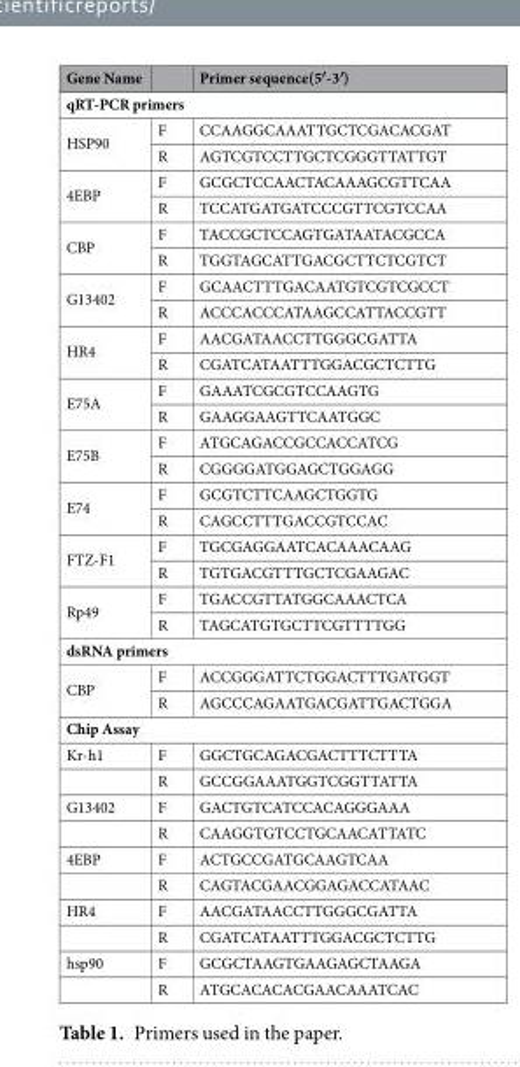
<table><thead><tr><td>Gene Name</td><td></td><td>Primer sequence(5′-3′)</td></tr></thead><tbody><tr><td colspan="3">qRT-PCR primers</td></tr><tr><td rowspan="2">HSP90</td><td>F</td><td>CCAAGGCAAATTGCTCGACACGAT</td></tr><tr><td>R</td><td>AGTCGTCCTTGCTCGGGTTATTGT</td></tr><tr><td rowspan="2">4EBP</td><td>F</td><td>GCGCTCCAACTACAAAGCGTTCAA</td></tr><tr><td>R</td><td>TCCATGATGATCCCGTTCGTCCAA</td></tr><tr><td rowspan="2">CBP</td><td>F</td><td>TACCGCTCCAGTGATAATACGCCA</td></tr><tr><td>R</td><td>TGGTAGCATTGACGCTTCTCGTCT</td></tr><tr><td rowspan="2">G13402</td><td>F</td><td>GCAACTTTGACAATGTCGTCGCCT</td></tr><tr><td>R</td><td>ACCCACCCATAAGCCATTACCGTT</td></tr><tr><td rowspan="2">HR4</td><td>F</td><td>AACGATAACCTTGGGCGATTA</td></tr><tr><td>R</td><td>CGATCATAATTTGGACGCTCTTG</td></tr><tr><td rowspan="2">E75A</td><td>F</td><td>GAAATCGCGTCCAAGTG</td></tr><tr><td>R</td><td>GAAGGAAGTTCAATGGC</td></tr><tr><td rowspan="2">E75B</td><td>F</td><td>ATGCAGACCGCCACCATCG</td></tr><tr><td>R</td><td>CGGGGATGGAGCTGGAGG</td></tr><tr><td rowspan="2">E74</td><td>F</td><td>GCGTCTTCAAGCTGGTG</td></tr><tr><td>R</td><td>CAGCCTTTGACCGTCCAC</td></tr><tr><td rowspan="2">FTZ-F1</td><td>F</td><td>TGCGAGGAATCACAAACAAG</td></tr><tr><td>R</td><td>TGTGACGTTTGCTCGAAGAC</td></tr><tr><td rowspan="2">Rp49</td><td>F</td><td>TGACCGTTATGGCAAACTCA</td></tr><tr><td>R</td><td>TAGCATGTGCTTCGTTTTGG</td></tr><tr><td colspan="3">dsRNA primers</td></tr><tr><td rowspan="2">CBP</td><td>F</td><td>ACCGGGATTCTGGACTTTGATGGT</td></tr><tr><td>R</td><td>AGCCCAGAATGACGATTGACTGGA</td></tr><tr><td colspan="3">Chip Assay</td></tr><tr><td rowspan="2">Kr-h1</td><td>F</td><td>GGCTGCAGACGACTTTCTTTA</td></tr><tr><td>R</td><td>GCCGGAAATGGTCGGTTATTA</td></tr><tr><td rowspan="2">G13402</td><td>F</td><td>GACTGTCATCCACAGGGAAA</td></tr><tr><td>R</td><td>CAAGGTGTCCTGCAACATTATC</td></tr><tr><td rowspan="2">4EBP</td><td>F</td><td>ACTGCCGATGCAAGTCAA</td></tr><tr><td>R</td><td>CAGTACGAACGGAGACCATAAC</td></tr><tr><td rowspan="2">HR4</td><td>F</td><td>AACGATAACCTTGGGCGATTA</td></tr><tr><td>R</td><td>CGATCATAATTTGGACGCTCTTG</td></tr><tr><td rowspan="2">hsp90</td><td>F</td><td>GCGCTAAGTGAAGAGCTAAGA</td></tr><tr><td>R</td><td>ATGCACACACGAACAAATCAC</td></tr></tbody></table>